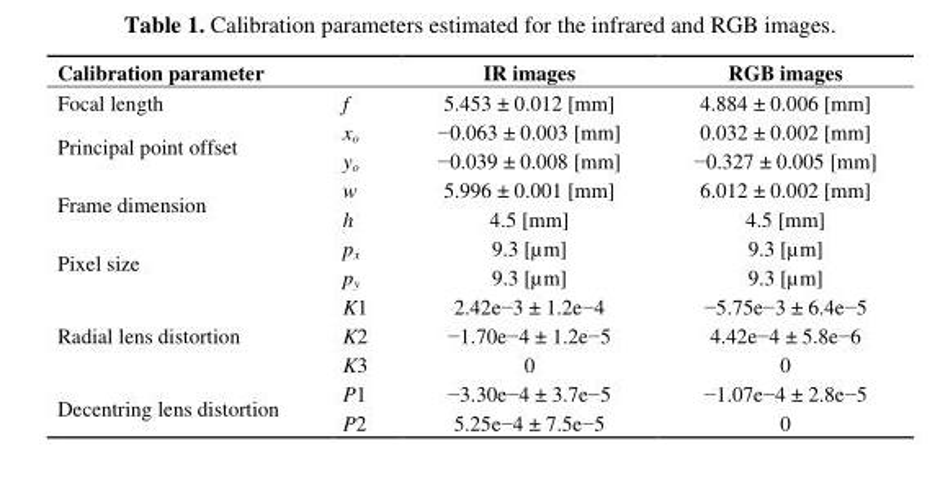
<table><thead><tr><td>Calibration parameter</td><td></td><td>IR images</td><td>RGB images</td></tr></thead><tbody><tr><td>Focal length</td><td>f</td><td>5.453 ± 0.012 [mm]</td><td>4.884 ± 0.006 [mm]</td></tr><tr><td rowspan="2">Principal point offset</td><td>x<sub>o</sub></td><td>−0.063 ± 0.003 [mm]</td><td>0.032 ± 0.002 [mm]</td></tr><tr><td>y<sub>o</sub></td><td>−0.039 ± 0.008 [mm]</td><td>−0.327 ± 0.005 [mm]</td></tr><tr><td rowspan="2">Frame dimension</td><td>w</td><td>5.996 ± 0.001 [mm]</td><td>6.012 ± 0.002 [mm]</td></tr><tr><td>h</td><td>4.5 [mm]</td><td>4.5 [mm]</td></tr><tr><td rowspan="2">Pixel size</td><td>p<sub>x</sub></td><td>9.3 [µm]</td><td>9.3 [µm]</td></tr><tr><td>p<sub>y</sub></td><td>9.3 [µm]</td><td>9.3 [µm]</td></tr><tr><td rowspan="3">Radial lens distortion</td><td>K1</td><td>2.42e−3 ± 1.2e−4</td><td>−5.75e−3 ± 6.4e−5</td></tr><tr><td>K2</td><td>−1.70e−4 ± 1.2e−5</td><td>4.42e−4 ± 5.8e−6</td></tr><tr><td>K3</td><td>0</td><td>0</td></tr><tr><td rowspan="2">Decentring lens distortion</td><td>P1</td><td>−3.30e−4 ± 3.7e−5</td><td>−1.07e−4 ± 2.8e−5</td></tr><tr><td>P2</td><td>5.25e−4 ± 7.5e−5</td><td>0</td></tr></tbody></table>